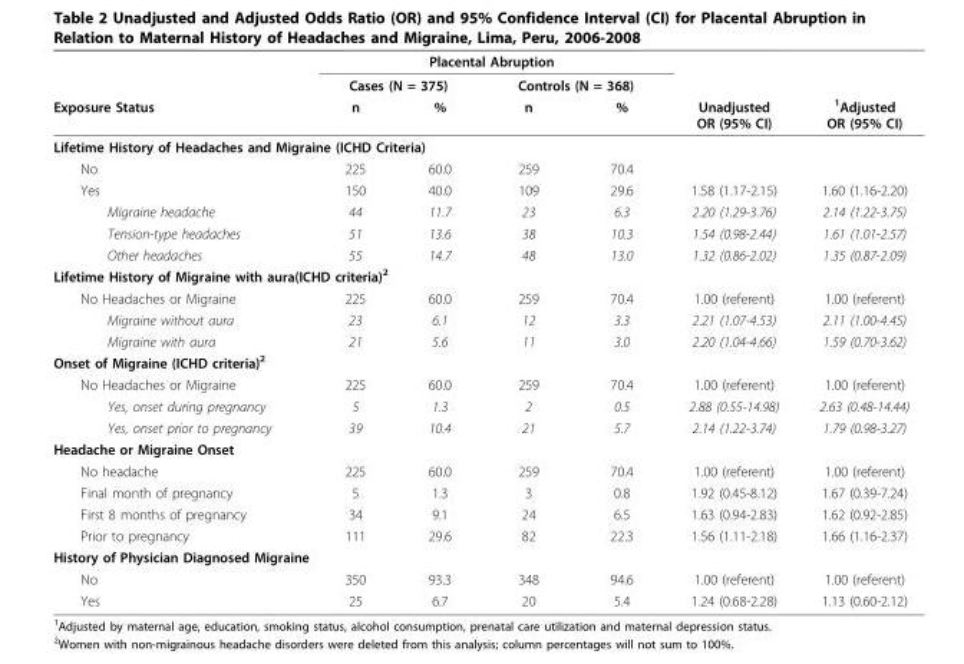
<table><thead><tr><td rowspan="3">Exposure Status</td><td colspan="4">Placental Abruption</td><td rowspan="3">Unadjusted OR (95% CI)</td><td rowspan="3"><sup>1</sup>Adjusted OR (95% CI)</td></tr><tr><td colspan="2">Cases (N = 375)</td><td colspan="2">Controls (N = 368)</td></tr><tr><td>n</td><td>%</td><td>n</td><td>%</td></tr></thead><tbody><tr><td colspan="7">Lifetime History of Headaches and Migraine (ICHD Criteria)</td></tr><tr><td>No</td><td>225</td><td>60.0</td><td>259</td><td>70.4</td><td></td><td></td></tr><tr><td>Yes</td><td>150</td><td>40.0</td><td>109</td><td>29.6</td><td>1.58 (1.17-2.15)</td><td>1.60 (1.16-2.20)</td></tr><tr><td>Migraine headache</td><td>44</td><td>11.7</td><td>23</td><td>6.3</td><td>2.20 (1.29-3.76)</td><td>2.14 (1.22-3.75)</td></tr><tr><td>Tension-type headaches</td><td>51</td><td>13.6</td><td>38</td><td>10.3</td><td>1.54 (0.98-2.44)</td><td>1.61 (1.01-2.57)</td></tr><tr><td>Other headaches</td><td>55</td><td>14.7</td><td>48</td><td>13.0</td><td>1.32 (0.86-2.02)</td><td>1.35 (0.87-2.09)</td></tr><tr><td colspan="7">Lifetime History of Migraine with aura(ICHD criteria)<sup>2</sup></td></tr><tr><td>No Headaches or Migraine</td><td>225</td><td>60.0</td><td>259</td><td>70.4</td><td>1.00 (referent)</td><td>1.00 (referent)</td></tr><tr><td>Migraine without aura</td><td>23</td><td>6.1</td><td>12</td><td>3.3</td><td>2.21 (1.07-4.53)</td><td>2.11 (1.00-4.45)</td></tr><tr><td>Migraine with aura</td><td>21</td><td>5.6</td><td>11</td><td>3.0</td><td>2.20 (1.04-4.66)</td><td>1.59 (0.70-3.62)</td></tr><tr><td colspan="7">Onset of Migraine (ICHD criteria)<sup>2</sup></td></tr><tr><td>No Headaches or Migraine</td><td>225</td><td>60.0</td><td>259</td><td>70.4</td><td>1.00 (referent)</td><td>1.00 (referent)</td></tr><tr><td>Yes, onset during pregnancy</td><td>5</td><td>1.3</td><td>2</td><td>0.5</td><td>2.88 (0.55-14.98)</td><td>2.63 (0.48-14.44)</td></tr><tr><td>Yes, onset prior to pregnancy</td><td>39</td><td>10.4</td><td>21</td><td>5.7</td><td>2.14 (1.22-3.74)</td><td>1.79 (0.98-3.27)</td></tr><tr><td colspan="7">Headache or Migraine Onset</td></tr><tr><td>No headache</td><td>225</td><td>60.0</td><td>259</td><td>70.4</td><td>1.00 (referent)</td><td>1.00 (referent)</td></tr><tr><td>Final month of pregnancy</td><td>5</td><td>1.3</td><td>3</td><td>0.8</td><td>1.92 (0.45-8.12)</td><td>1.67 (0.39-7.24)</td></tr><tr><td>First 8 months of pregnancy</td><td>34</td><td>9.1</td><td>24</td><td>6.5</td><td>1.63 (0.94-2.83)</td><td>1.62 (0.92-2.85)</td></tr><tr><td>Prior to pregnancy</td><td>111</td><td>29.6</td><td>82</td><td>22.3</td><td>1.56 (1.11-2.18)</td><td>1.66 (1.16-2.37)</td></tr><tr><td colspan="7">History of Physician Diagnosed Migraine</td></tr><tr><td>No</td><td>350</td><td>93.3</td><td>348</td><td>94.6</td><td>1.00 (referent)</td><td>1.00 (referent)</td></tr><tr><td>Yes</td><td>25</td><td>6.7</td><td>20</td><td>5.4</td><td>1.24 (0.68-2.28)</td><td>1.13 (0.60-2.12)</td></tr></tbody></table>